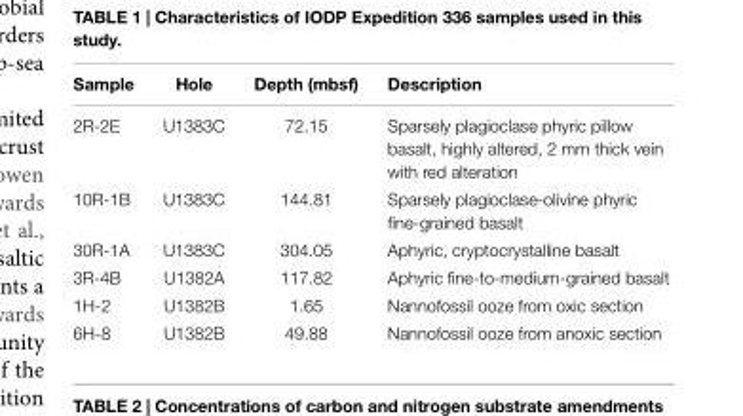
<table><thead><tr><td>Sample</td><td>Hole</td><td>Depth (mbsf)</td><td>Description</td></tr></thead><tbody><tr><td>2R-2E</td><td>U1383C</td><td>72.15</td><td>Sparsely plagioclase phyric pillow basalt, highly altered, 2 mm thick vein with red alteration</td></tr><tr><td>10R-1B</td><td>U1383C</td><td>144.81</td><td>Sparsely plagioclase-olivine phyric fine-grained basalt</td></tr><tr><td>30R-1A</td><td>U1383C</td><td>304.05</td><td>Aphyric, cryptocrystalline basalt</td></tr><tr><td>3R-4B</td><td>U1382A</td><td>117.82</td><td>Aphyric fine-to-medium-grained basalt</td></tr><tr><td>1H-2</td><td>U1382B</td><td>1.65</td><td>Nannofossil ooze from oxic section</td></tr><tr><td>6H-8</td><td>U1382B</td><td>49.88</td><td>Nannofossil ooze from anoxic section</td></tr></tbody></table>